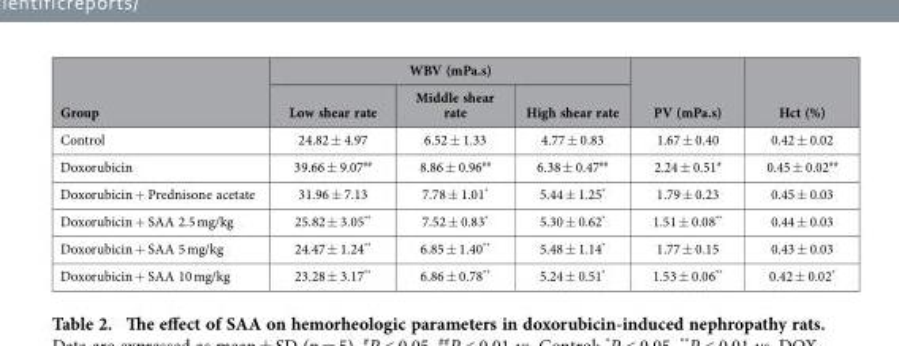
<table><thead><tr><td rowspan="2">Group</td><td colspan="3">WBV (mPa.s)</td><td rowspan="2">PV (mPa.s)</td><td rowspan="2">Hct (%)</td></tr><tr><td>Low shear rate</td><td>Middle shear rate</td><td>High shear rate</td></tr></thead><tbody><tr><td>Control</td><td>24.82 ± 4.97</td><td>6.52 ± 1.33</td><td>4.77 ± 0.83</td><td>1.67 ± 0.40</td><td>0.42 ± 0.02</td></tr><tr><td>Doxorubicin</td><td>39.66 ± 9.07<sup>##</sup></td><td>8.86 ± 0.96<sup>##</sup></td><td>6.38 ± 0.47<sup>##</sup></td><td>2.24 ± 0.51<sup>#</sup></td><td>0.45 ± 0.02<sup>##</sup></td></tr><tr><td>Doxorubicin + Prednisone acetate</td><td>31.96 ± 7.13</td><td>7.78 ± 1.01*</td><td>5.44 ± 1.25*</td><td>1.79 ± 0.23</td><td>0.45 ± 0.03</td></tr><tr><td>Doxorubicin + SAA 2.5 mg/kg</td><td>25.82 ± 3.05**</td><td>7.52 ± 0.83*</td><td>5.30 ± 0.62*</td><td>1.51 ± 0.08**</td><td>0.44 ± 0.03</td></tr><tr><td>Doxorubicin + SAA 5 mg/kg</td><td>24.47 ± 1.24**</td><td>6.85 ± 1.40**</td><td>5.48 ± 1.14*</td><td>1.77 ± 0.15</td><td>0.43 ± 0.03</td></tr><tr><td>Doxorubicin + SAA 10 mg/kg</td><td>23.28 ± 3.17**</td><td>6.86 ± 0.78**</td><td>5.24 ± 0.51*</td><td>1.53 ± 0.06**</td><td>0.42 ± 0.02*</td></tr></tbody></table>